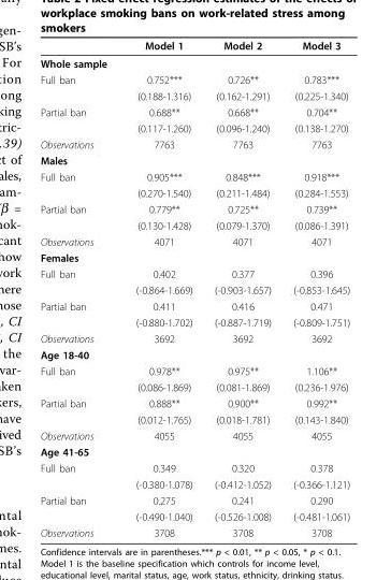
<table><thead><tr><td></td><td>Model 1</td><td>Model 2</td><td>Model 3</td></tr></thead><tbody><tr><td colspan="4">Whole sample</td></tr><tr><td rowspan="2">Full ban</td><td>0.752***</td><td>0.726**</td><td>0.783***</td></tr><tr><td>(0.188-1.316)</td><td>(0.162-1.291)</td><td>(0.225-1.340)</td></tr><tr><td rowspan="2">Partial ban</td><td>0.688**</td><td>0.668**</td><td>0.704**</td></tr><tr><td>(0.117-1.260)</td><td>(0.096-1.240)</td><td>(0.138-1.270)</td></tr><tr><td>Observations</td><td>7763</td><td>7763</td><td>7763</td></tr><tr><td colspan="4">Males</td></tr><tr><td rowspan="2">Full ban</td><td>0.905***</td><td>0.848***</td><td>0.918***</td></tr><tr><td>(0.270-1.540)</td><td>(0.211-1.484)</td><td>(0.284-1.553)</td></tr><tr><td rowspan="2">Partial ban</td><td>0.779**</td><td>0.725**</td><td>0.739**</td></tr><tr><td>(0.130-1.428)</td><td>(0.079-1.370)</td><td>(0.086-1.391)</td></tr><tr><td>Observations</td><td>4071</td><td>4071</td><td>4071</td></tr><tr><td colspan="4">Females</td></tr><tr><td rowspan="2">Full ban</td><td>0.402</td><td>0.377</td><td>0.396</td></tr><tr><td>(-0.864-1.669)</td><td>(-0.903-1.657)</td><td>(-0.853-1.645)</td></tr><tr><td rowspan="2">Partial ban</td><td>0.411</td><td>0.416</td><td>0.471</td></tr><tr><td>(-0.880-1.702)</td><td>(-0.887-1.719)</td><td>(-0.809-1.751)</td></tr><tr><td>Observations</td><td>3692</td><td>3692</td><td>3692</td></tr><tr><td colspan="4">Age 18-40</td></tr><tr><td rowspan="2">Full ban</td><td>0.978**</td><td>0.975**</td><td>1.106**</td></tr><tr><td>(0.086-1.869)</td><td>(0.081-1.869)</td><td>(0.236-1.976)</td></tr><tr><td rowspan="2">Partial ban</td><td>0.888**</td><td>0.900**</td><td>0.992**</td></tr><tr><td>(0.012-1.765)</td><td>(0.018-1.781)</td><td>(0.143-1.840)</td></tr><tr><td>Observations</td><td>4055</td><td>4055</td><td>4055</td></tr><tr><td colspan="4">Age 41-65</td></tr><tr><td rowspan="2">Full ban</td><td>0.349</td><td>0.320</td><td>0.378</td></tr><tr><td>(-0.380-1.078)</td><td>(-0.412-1.052)</td><td>(-0.366-1.121)</td></tr><tr><td rowspan="2">Partial ban</td><td>0.275</td><td>0.241</td><td>0.290</td></tr><tr><td>(-0.490-1.040)</td><td>(-0.526-1.008)</td><td>(-0.481-1.061)</td></tr><tr><td>Observations</td><td>3708</td><td>3708</td><td>3708</td></tr></tbody></table>